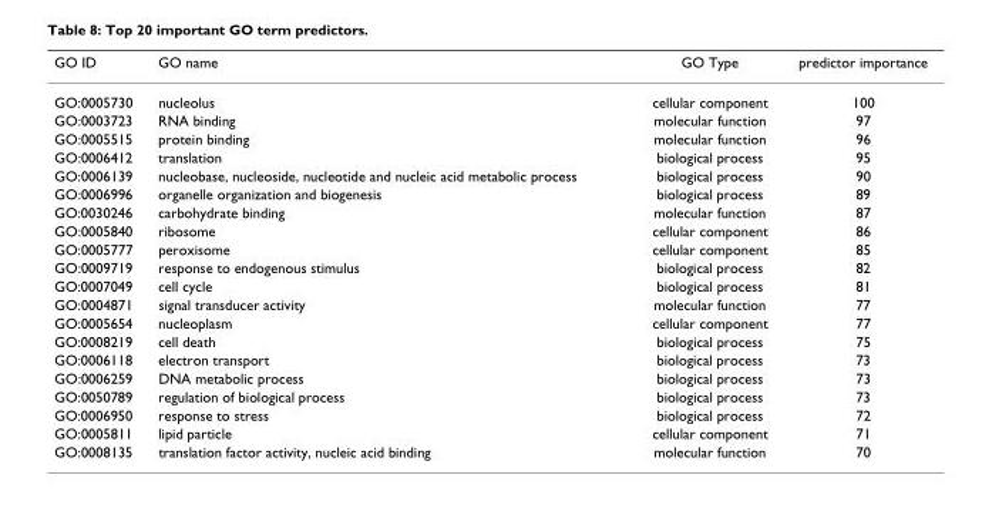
<table><thead><tr><td>GO ID</td><td>GO name</td><td>GO Type</td><td>predictor importance</td></tr></thead><tbody><tr><td>GO:0005730</td><td>nucleolus</td><td>cellular component</td><td>100</td></tr><tr><td>GO:0003723</td><td>RNA binding</td><td>molecular function</td><td>97</td></tr><tr><td>GO:0005515</td><td>protein binding</td><td>molecular function</td><td>96</td></tr><tr><td>GO:0006412</td><td>translation</td><td>biological process</td><td>95</td></tr><tr><td>GO:0006139</td><td>nucleobase, nucleoside, nucleotide and nucleic acid metabolic process</td><td>biological process</td><td>90</td></tr><tr><td>GO:0006996</td><td>organelle organization and biogenesis</td><td>biological process</td><td>89</td></tr><tr><td>GO:0030246</td><td>carbohydrate binding</td><td>molecular function</td><td>87</td></tr><tr><td>GO:0005840</td><td>ribosome</td><td>cellular component</td><td>86</td></tr><tr><td>GO:0005777</td><td>peroxisome</td><td>cellular component</td><td>85</td></tr><tr><td>GO:0009719</td><td>response to endogenous stimulus</td><td>biological process</td><td>82</td></tr><tr><td>GO:0007049</td><td>cell cycle</td><td>biological process</td><td>81</td></tr><tr><td>GO:0004871</td><td>signal transducer activity</td><td>molecular function</td><td>77</td></tr><tr><td>GO:0005654</td><td>nucleoplasm</td><td>cellular component</td><td>77</td></tr><tr><td>GO:0008219</td><td>cell death</td><td>biological process</td><td>75</td></tr><tr><td>GO:0006118</td><td>electron transport</td><td>biological process</td><td>73</td></tr><tr><td>GO:0006259</td><td>DNA metabolic process</td><td>biological process</td><td>73</td></tr><tr><td>GO:0050789</td><td>regulation of biological process</td><td>biological process</td><td>73</td></tr><tr><td>GO:0006950</td><td>response to stress</td><td>biological process</td><td>72</td></tr><tr><td>GO:0005811</td><td>lipid particle</td><td>cellular component</td><td>71</td></tr><tr><td>GO:0008135</td><td>translation factor activity, nucleic acid binding</td><td>molecular function</td><td>70</td></tr></tbody></table>